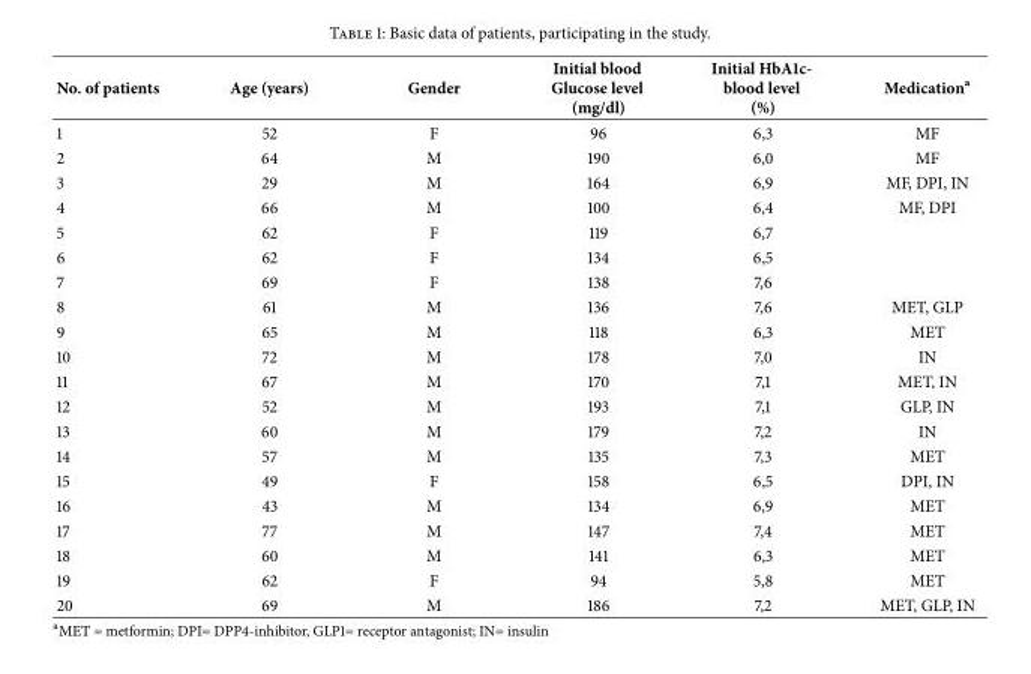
<table><thead><tr><td>No. of patients</td><td>Age (years)</td><td>Gender</td><td>Initial blood Glucose level (mg/dl)</td><td>Initial HbA1c- blood level (%)</td><td>Medication<sup>a</sup></td></tr></thead><tbody><tr><td>1</td><td>52</td><td>F</td><td>96</td><td>6,3</td><td>MF</td></tr><tr><td>2</td><td>64</td><td>M</td><td>190</td><td>6,0</td><td>MF</td></tr><tr><td>3</td><td>29</td><td>M</td><td>164</td><td>6,9</td><td>MF, DPI, IN</td></tr><tr><td>4</td><td>66</td><td>M</td><td>100</td><td>6,4</td><td>MF, DPI</td></tr><tr><td>5</td><td>62</td><td>F</td><td>119</td><td>6,7</td><td></td></tr><tr><td>6</td><td>62</td><td>F</td><td>134</td><td>6,5</td><td></td></tr><tr><td>7</td><td>69</td><td>F</td><td>138</td><td>7,6</td><td></td></tr><tr><td>8</td><td>61</td><td>M</td><td>136</td><td>7,6</td><td>MET, GLP</td></tr><tr><td>9</td><td>65</td><td>M</td><td>118</td><td>6,3</td><td>MET</td></tr><tr><td>10</td><td>72</td><td>M</td><td>178</td><td>7,0</td><td>IN</td></tr><tr><td>11</td><td>67</td><td>M</td><td>170</td><td>7,1</td><td>MET, IN</td></tr><tr><td>12</td><td>52</td><td>M</td><td>193</td><td>7,1</td><td>GLP, IN</td></tr><tr><td>13</td><td>60</td><td>M</td><td>179</td><td>7,2</td><td>IN</td></tr><tr><td>14</td><td>57</td><td>M</td><td>135</td><td>7,3</td><td>MET</td></tr><tr><td>15</td><td>49</td><td>F</td><td>158</td><td>6,5</td><td>DPI, IN</td></tr><tr><td>16</td><td>43</td><td>M</td><td>134</td><td>6,9</td><td>MET</td></tr><tr><td>17</td><td>77</td><td>M</td><td>147</td><td>7,4</td><td>MET</td></tr><tr><td>18</td><td>60</td><td>M</td><td>141</td><td>6,3</td><td>MET</td></tr><tr><td>19</td><td>62</td><td>F</td><td>94</td><td>5,8</td><td>MET</td></tr><tr><td>20</td><td>69</td><td>M</td><td>186</td><td>7,2</td><td>MET, GLP, IN</td></tr></tbody></table>